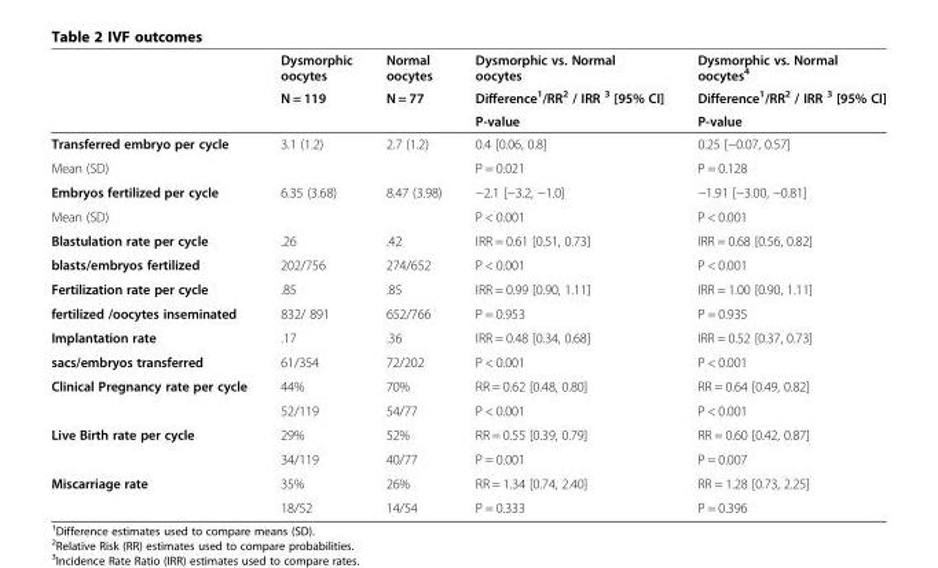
<table><thead><tr><td rowspan="3"></td><td rowspan="3">Dysmorphic oocytes N = 119</td><td rowspan="3">Normal oocytes N = 77</td><td rowspan="3">Dysmorphic vs. Normal oocytes Difference<sup>1</sup>/RR<sup>2</sup> / IRR <sup>3</sup> [95% CI] P-value</td><td rowspan="3">Dysmorphic vs. Normal oocytes<sup>4</sup> Difference<sup>1</sup>/RR<sup>2</sup> / IRR <sup>3</sup> [95% CI] P-value</td></tr><tr></tr><tr></tr></thead><tbody><tr><td>Transferred embryo per cycle</td><td>3.1 (1.2)</td><td>2.7 (1.2)</td><td>0.4 [0.06, 0.8]</td><td>0.25 [−0.07, 0.57]</td></tr><tr><td>Mean (SD)</td><td></td><td></td><td>P = 0.021</td><td>P = 0.128</td></tr><tr><td>Embryos fertilized per cycle</td><td>6.35 (3.68)</td><td>8.47 (3.98)</td><td>−2.1 [−3.2, −1.0]</td><td>−1.91 [−3.00, −0.81]</td></tr><tr><td>Mean (SD)</td><td></td><td></td><td>P &lt; 0.001</td><td>P &lt; 0.001</td></tr><tr><td>Blastulation rate per cycle</td><td>.26</td><td>.42</td><td>IRR = 0.61 [0.51, 0.73]</td><td>IRR = 0.68 [0.56, 0.82]</td></tr><tr><td>blasts/embryos fertilized</td><td>202/756</td><td>274/652</td><td>P &lt; 0.001</td><td>P &lt; 0.001</td></tr><tr><td>Fertilization rate per cycle</td><td>.85</td><td>.85</td><td>IRR = 0.99 [0.90, 1.11]</td><td>IRR = 1.00 [0.90, 1.11]</td></tr><tr><td>fertilized /oocytes inseminated</td><td>832/ 891</td><td>652/766</td><td>P = 0.953</td><td>P = 0.935</td></tr><tr><td>Implantation rate</td><td>.17</td><td>.36</td><td>IRR = 0.48 [0.34, 0.68]</td><td>IRR = 0.52 [0.37, 0.73]</td></tr><tr><td>sacs/embryos transferred</td><td>61/354</td><td>72/202</td><td>P &lt; 0.001</td><td>P &lt; 0.001</td></tr><tr><td rowspan="2">Clinical Pregnancy rate per cycle</td><td>44%</td><td>70%</td><td>RR = 0.62 [0.48, 0.80]</td><td>RR = 0.64 [0.49, 0.82]</td></tr><tr><td>52/119</td><td>54/77</td><td>P &lt; 0.001</td><td>P &lt; 0.001</td></tr><tr><td rowspan="2">Live Birth rate per cycle</td><td>29%</td><td>52%</td><td>RR = 0.55 [0.39, 0.79]</td><td>RR = 0.60 [0.42, 0.87]</td></tr><tr><td>34/119</td><td>40/77</td><td>P = 0.001</td><td>P = 0.007</td></tr><tr><td rowspan="2">Miscarriage rate</td><td>35%</td><td>26%</td><td>RR = 1.34 [0.74, 2.40]</td><td>RR = 1.28 [0.73, 2.25]</td></tr><tr><td>18/52</td><td>14/54</td><td>P = 0.333</td><td>P = 0.396</td></tr></tbody></table>